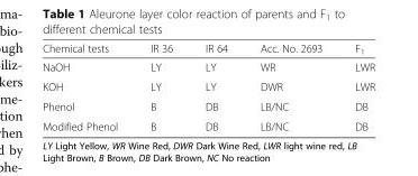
<table><thead><tr><td>Chemical tests</td><td>IR 36</td><td>IR 64</td><td>Acc. No. 2693</td><td>F<sub>1</sub></td></tr></thead><tbody><tr><td>NaOH</td><td>LY</td><td>LY</td><td>WR</td><td>LWR</td></tr><tr><td>KOH</td><td>LY</td><td>LY</td><td>DWR</td><td>LWR</td></tr><tr><td>Phenol</td><td>B</td><td>DB</td><td>LB/NC</td><td>DB</td></tr><tr><td>Modified Phenol</td><td>B</td><td>DB</td><td>LB/NC</td><td>DB</td></tr></tbody></table>